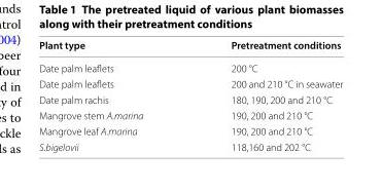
<table><thead><tr><td>Plant type</td><td>Pretreatment conditions</td></tr></thead><tbody><tr><td>Date palm leaflets</td><td>200 °C</td></tr><tr><td>Date palm leaflets</td><td>200 and 210 °C in seawater</td></tr><tr><td>Date palm rachis</td><td>180, 190, 200 and 210 °C</td></tr><tr><td>Mangrove stem A.marina</td><td>190, 200 and 210 °C</td></tr><tr><td>Mangrove leaf A.marina</td><td>190, 200 and 210 °C</td></tr><tr><td>S.bigelovii</td><td>118,160 and 202 °C</td></tr></tbody></table>